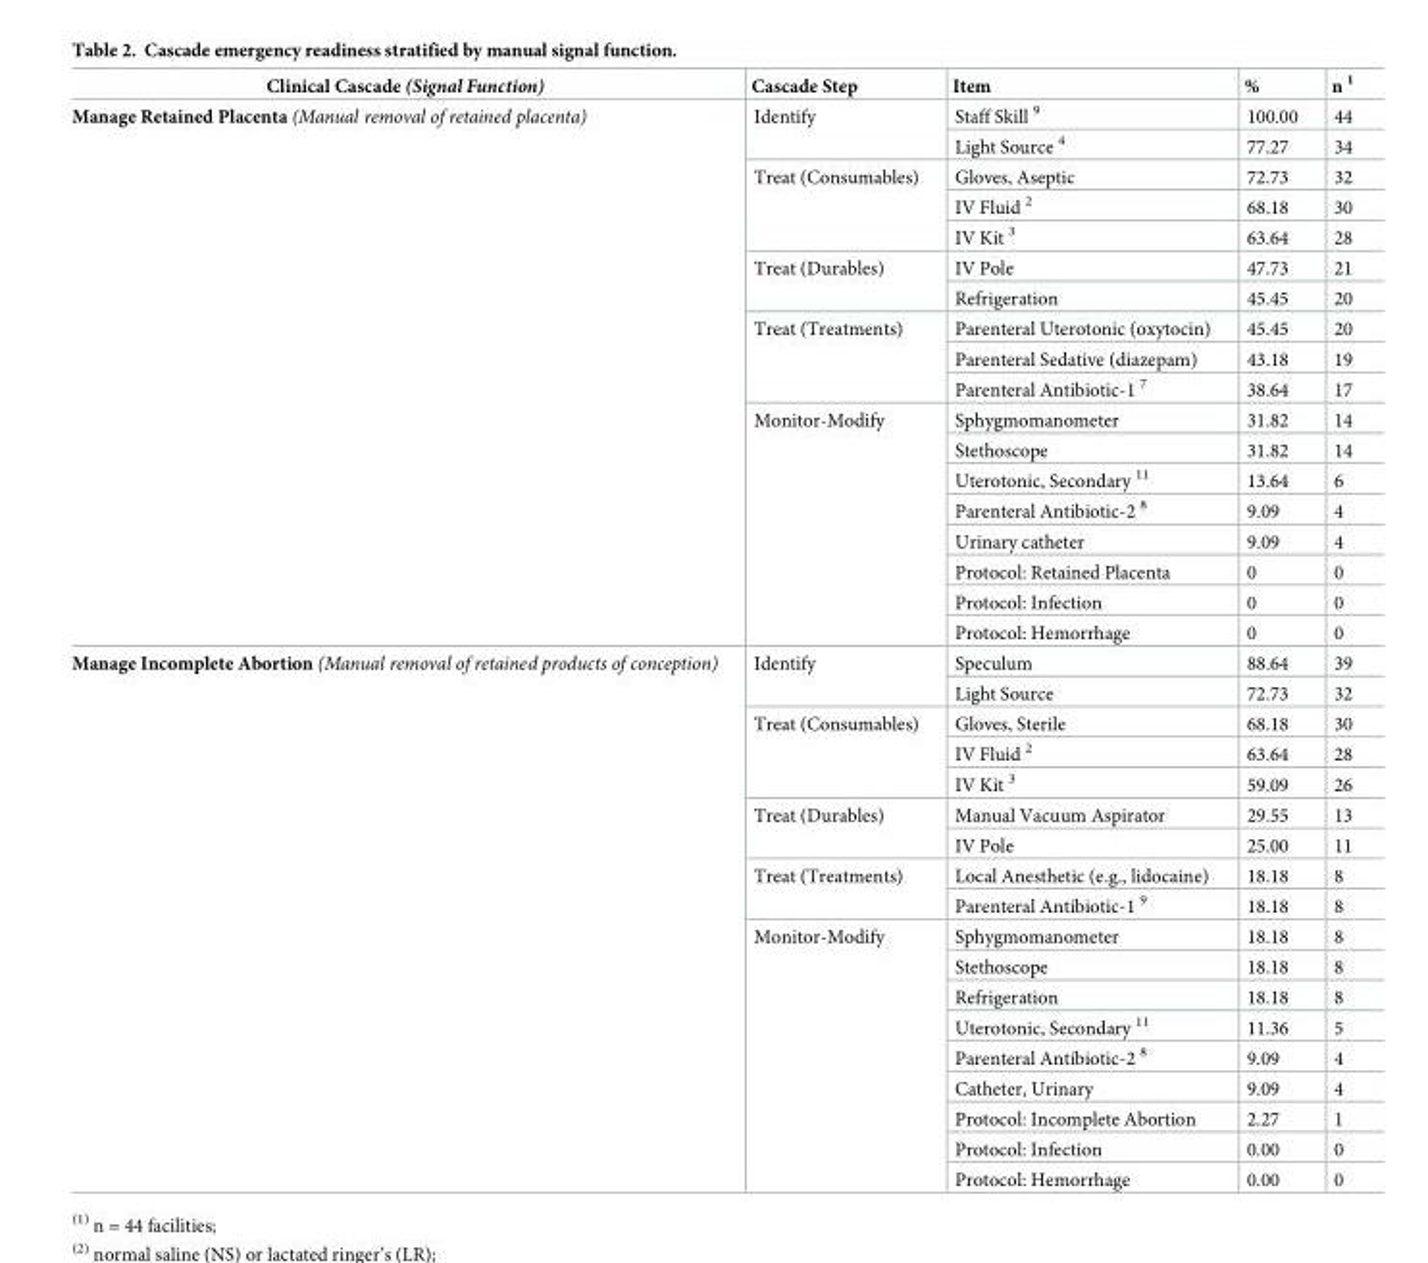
<table><thead><tr><td>Clinical Cascade (Signal Function)</td><td>Cascade Step</td><td>Item</td><td>%</td><td>n <sup>1</sup></td></tr></thead><tbody><tr><td rowspan="18">Manage Retained Placenta (Manual removal of retained placenta)</td><td rowspan="2">Identify</td><td>Staff Skill <sup>9</sup></td><td>100.00</td><td>44</td></tr><tr><td>Light Source <sup>4</sup></td><td>77.27</td><td>34</td></tr><tr><td rowspan="3">Treat (Consumables)</td><td>Gloves, Aseptic</td><td>72.73</td><td>32</td></tr><tr><td>IV Fluid <sup>2</sup></td><td>68.18</td><td>30</td></tr><tr><td>IV Kit <sup>3</sup></td><td>63.64</td><td>28</td></tr><tr><td rowspan="2">Treat (Durables)</td><td>IV Pole</td><td>47.73</td><td>21</td></tr><tr><td>Refrigeration</td><td>45.45</td><td>20</td></tr><tr><td rowspan="3">Treat (Treatments)</td><td>Parenteral Uterotonic (oxytocin)</td><td>45.45</td><td>20</td></tr><tr><td>Parenteral Sedative (diazepam)</td><td>43.18</td><td>19</td></tr><tr><td>Parenteral Antibiotic-1 <sup>7</sup></td><td>38.64</td><td>17</td></tr><tr><td rowspan="8">Monitor-Modify</td><td>Sphygmomanometer</td><td>31.82</td><td>14</td></tr><tr><td>Stethoscope</td><td>31.82</td><td>14</td></tr><tr><td>Uterotonic, Secondary <sup>11</sup></td><td>13.64</td><td>6</td></tr><tr><td>Parenteral Antibiotic-2 <sup>8</sup></td><td>9.09</td><td>4</td></tr><tr><td>Urinary catheter</td><td>9.09</td><td>4</td></tr><tr><td>Protocol: Retained Placenta</td><td>0</td><td>0</td></tr><tr><td>Protocol: Infection</td><td>0</td><td>0</td></tr><tr><td>Protocol: Hemorrhage</td><td>0</td><td>0</td></tr><tr><td rowspan="18">Manage Incomplete Abortion (Manual removal of retained products of conception)</td><td rowspan="2">Identify</td><td>Speculum</td><td>88.64</td><td>39</td></tr><tr><td>Light Source</td><td>72.73</td><td>32</td></tr><tr><td rowspan="3">Treat (Consumables)</td><td>Gloves, Sterile</td><td>68.18</td><td>30</td></tr><tr><td>IV Fluid <sup>2</sup></td><td>63.64</td><td>28</td></tr><tr><td>IV Kit <sup>3</sup></td><td>59.09</td><td>26</td></tr><tr><td rowspan="2">Treat (Durables)</td><td>Manual Vacuum Aspirator</td><td>29.55</td><td>13</td></tr><tr><td>IV Pole</td><td>25.00</td><td>11</td></tr><tr><td rowspan="2">Treat (Treatments)</td><td>Local Anesthetic (e.g., lidocaine)</td><td>18.18</td><td>8</td></tr><tr><td>Parenteral Antibiotic-1 <sup>9</sup></td><td>18.18</td><td>8</td></tr><tr><td rowspan="9">Monitor-Modify</td><td>Sphygmomanometer</td><td>18.18</td><td>8</td></tr><tr><td>Stethoscope</td><td>18.18</td><td>8</td></tr><tr><td>Refrigeration</td><td>18.18</td><td>8</td></tr><tr><td>Uterotonic, Secondary <sup>11</sup></td><td>11.36</td><td>5</td></tr><tr><td>Parenteral Antibiotic-2 <sup>8</sup></td><td>9.09</td><td>4</td></tr><tr><td>Catheter, Urinary</td><td>9.09</td><td>4</td></tr><tr><td>Protocol: Incomplete Abortion</td><td>2.27</td><td>1</td></tr><tr><td>Protocol: Infection</td><td>0.00</td><td>0</td></tr><tr><td>Protocol: Hemorrhage</td><td>0.00</td><td>0</td></tr></tbody></table>